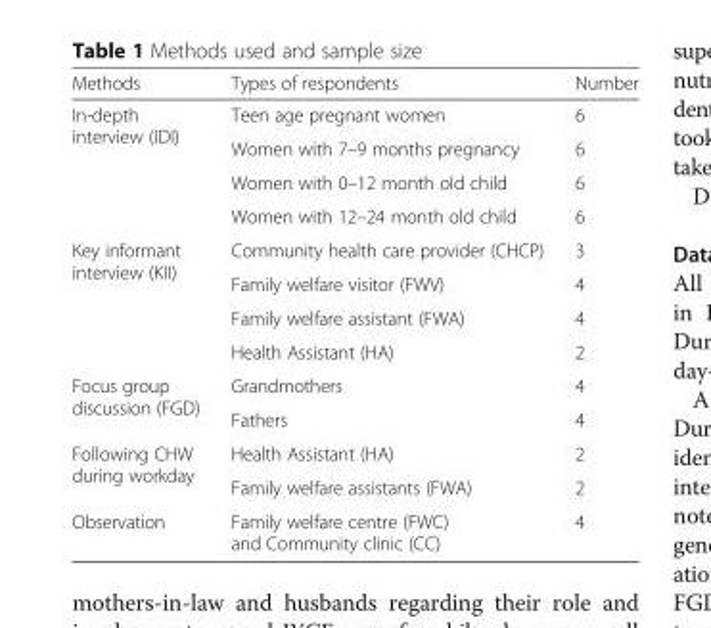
<table><thead><tr><td>Methods</td><td>Types of respondents</td><td>Number</td></tr></thead><tbody><tr><td rowspan="4">In-depth interview (IDI)</td><td>Teen age pregnant women</td><td>6</td></tr><tr><td>Women with 7–9 months pregnancy</td><td>6</td></tr><tr><td>Women with 0–12 month old child</td><td>6</td></tr><tr><td>Women with 12–24 month old child</td><td>6</td></tr><tr><td rowspan="4">Key informant interview (KII)</td><td>Community health care provider (CHCP)</td><td>3</td></tr><tr><td>Family welfare visitor (FWV)</td><td>4</td></tr><tr><td>Family welfare assistant (FWA)</td><td>4</td></tr><tr><td>Health Assistant (HA)</td><td>2</td></tr><tr><td rowspan="2">Focus group discussion (FGD)</td><td>Grandmothers</td><td>4</td></tr><tr><td>Fathers</td><td>4</td></tr><tr><td rowspan="2">Following CHW during workday</td><td>Health Assistant (HA)</td><td>2</td></tr><tr><td>Family welfare assistants (FWA)</td><td>2</td></tr><tr><td>Observation</td><td>Family welfare centre (FWC) and Community clinic (CC)</td><td>4</td></tr></tbody></table>